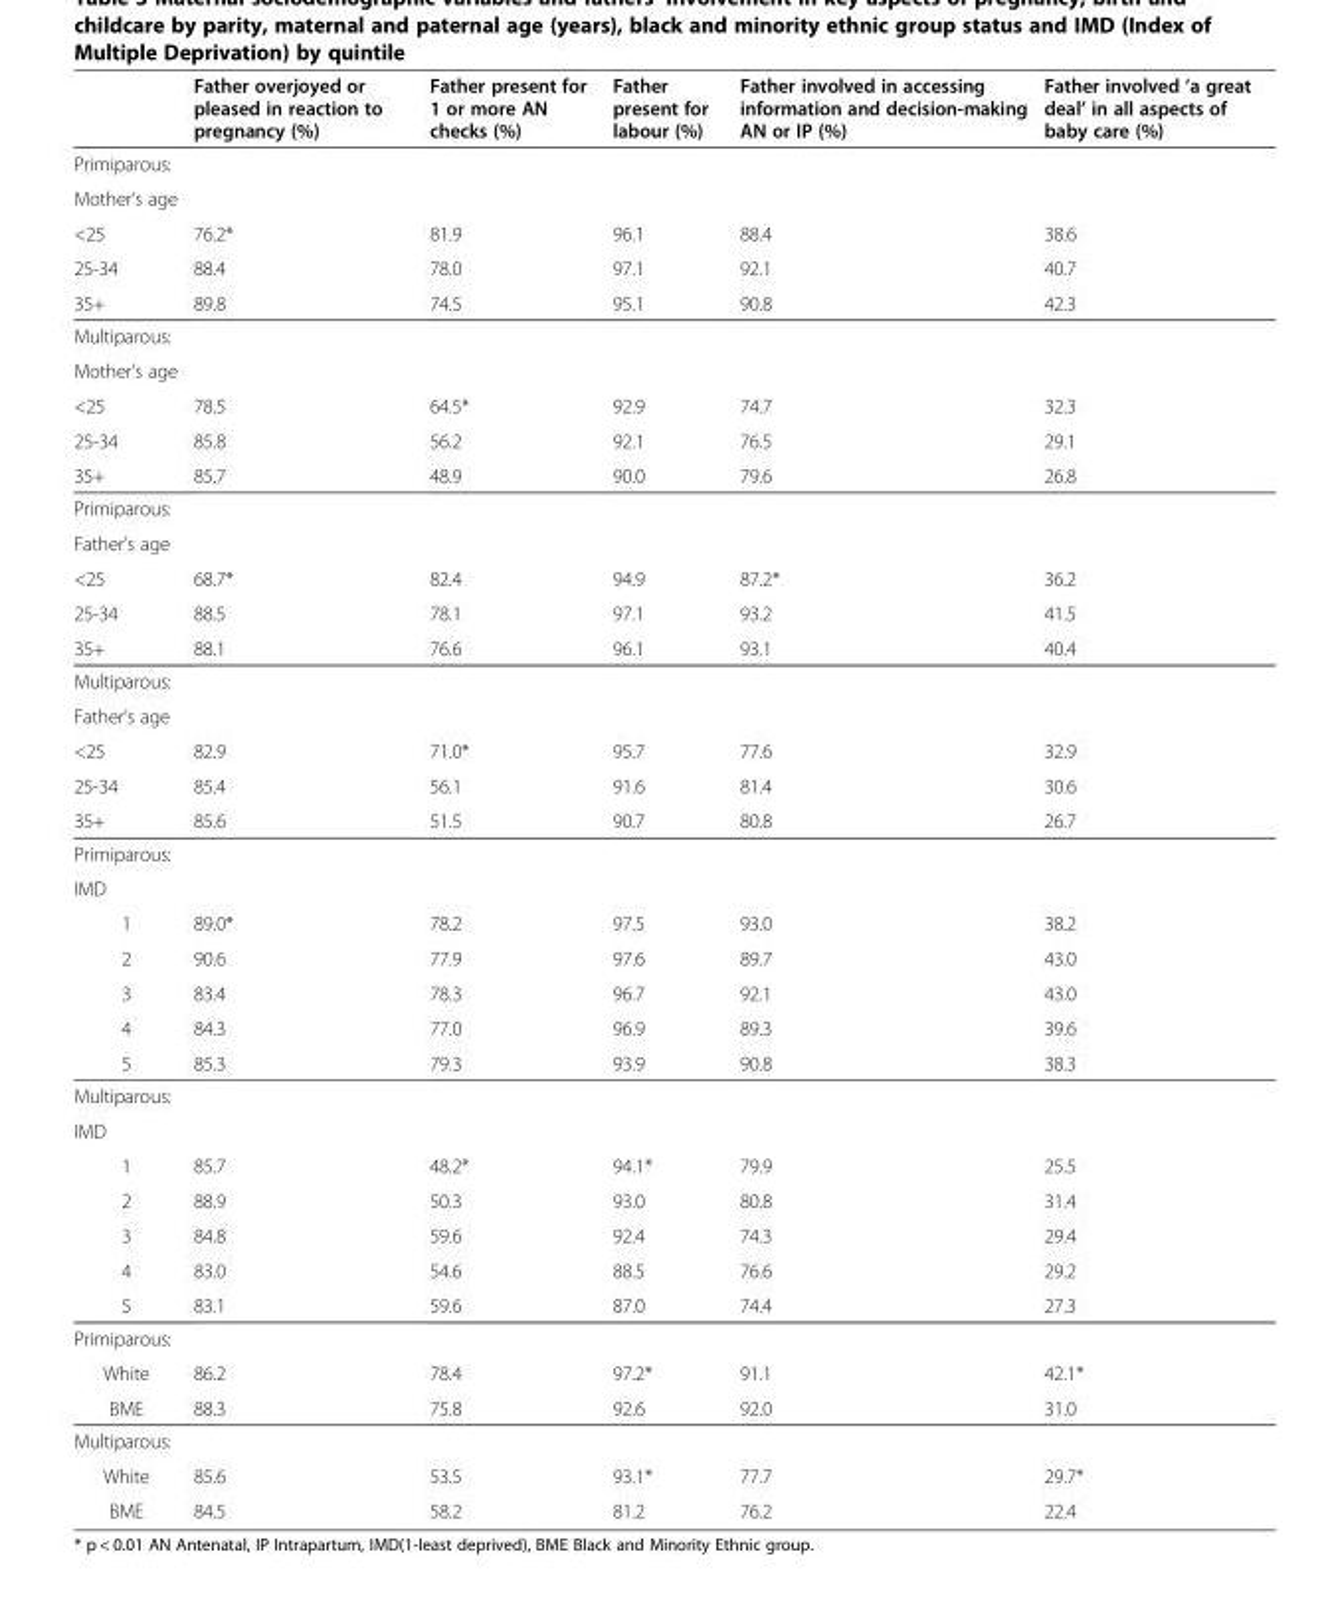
<table><thead><tr><td></td><td>Father overjoyed or pleased in reaction to pregnancy (%)</td><td>Father present for 1 or more AN checks (%)</td><td>Father present for labour (%)</td><td>Father involved in accessing information and decision-making AN or IP (%)</td><td>Father involved ‘a great deal’ in all aspects of baby care (%)</td></tr></thead><tbody><tr><td colspan="6">Primiparous:</td></tr><tr><td colspan="6">Mother’s age</td></tr><tr><td>&lt;25</td><td>76.2*</td><td>81.9</td><td>96.1</td><td>88.4</td><td>38.6</td></tr><tr><td>25-34</td><td>88.4</td><td>78.0</td><td>97.1</td><td>92.1</td><td>40.7</td></tr><tr><td>35+</td><td>89.8</td><td>74.5</td><td>95.1</td><td>90.8</td><td>42.3</td></tr><tr><td colspan="6">Multiparous:</td></tr><tr><td colspan="6">Mother’s age</td></tr><tr><td>&lt;25</td><td>78.5</td><td>64.5*</td><td>92.9</td><td>74.7</td><td>32.3</td></tr><tr><td>25-34</td><td>85.8</td><td>56.2</td><td>92.1</td><td>76.5</td><td>29.1</td></tr><tr><td>35+</td><td>85.7</td><td>48.9</td><td>90.0</td><td>79.6</td><td>26.8</td></tr><tr><td colspan="6">Primiparous:</td></tr><tr><td colspan="6">Father’s age</td></tr><tr><td>&lt;25</td><td>68.7*</td><td>82.4</td><td>94.9</td><td>87.2*</td><td>36.2</td></tr><tr><td>25-34</td><td>88.5</td><td>78.1</td><td>97.1</td><td>93.2</td><td>41.5</td></tr><tr><td>35+</td><td>88.1</td><td>76.6</td><td>96.1</td><td>93.1</td><td>40.4</td></tr><tr><td colspan="6">Multiparous:</td></tr><tr><td colspan="6">Father’s age</td></tr><tr><td>&lt;25</td><td>82.9</td><td>71.0*</td><td>95.7</td><td>77.6</td><td>32.9</td></tr><tr><td>25-34</td><td>85.4</td><td>56.1</td><td>91.6</td><td>81.4</td><td>30.6</td></tr><tr><td>35+</td><td>85.6</td><td>51.5</td><td>90.7</td><td>80.8</td><td>26.7</td></tr><tr><td colspan="6">Primiparous:</td></tr><tr><td colspan="6">IMD</td></tr><tr><td>1</td><td>89.0*</td><td>78.2</td><td>97.5</td><td>93.0</td><td>38.2</td></tr><tr><td>2</td><td>90.6</td><td>77.9</td><td>97.6</td><td>89.7</td><td>43.0</td></tr><tr><td>3</td><td>83.4</td><td>78.3</td><td>96.7</td><td>92.1</td><td>43.0</td></tr><tr><td>4</td><td>84.3</td><td>77.0</td><td>96.9</td><td>89.3</td><td>39.6</td></tr><tr><td>5</td><td>85.3</td><td>79.3</td><td>93.9</td><td>90.8</td><td>38.3</td></tr><tr><td colspan="6">Multiparous:</td></tr><tr><td colspan="6">IMD</td></tr><tr><td>1</td><td>85.7</td><td>48.2*</td><td>94.1*</td><td>79.9</td><td>25.5</td></tr><tr><td>2</td><td>88.9</td><td>50.3</td><td>93.0</td><td>80.8</td><td>31.4</td></tr><tr><td>3</td><td>84.8</td><td>59.6</td><td>92.4</td><td>74.3</td><td>29.4</td></tr><tr><td>4</td><td>83.0</td><td>54.6</td><td>88.5</td><td>76.6</td><td>29.2</td></tr><tr><td>5</td><td>83.1</td><td>59.6</td><td>87.0</td><td>74.4</td><td>27.3</td></tr><tr><td colspan="6">Primiparous:</td></tr><tr><td>White</td><td>86.2</td><td>78.4</td><td>97.2*</td><td>91.1</td><td>42.1*</td></tr><tr><td>BME</td><td>88.3</td><td>75.8</td><td>92.6</td><td>92.0</td><td>31.0</td></tr><tr><td colspan="6">Multiparous:</td></tr><tr><td>White</td><td>85.6</td><td>53.5</td><td>93.1*</td><td>77.7</td><td>29.7*</td></tr><tr><td>BME</td><td>84.5</td><td>58.2</td><td>81.2</td><td>76.2</td><td>22.4</td></tr></tbody></table>